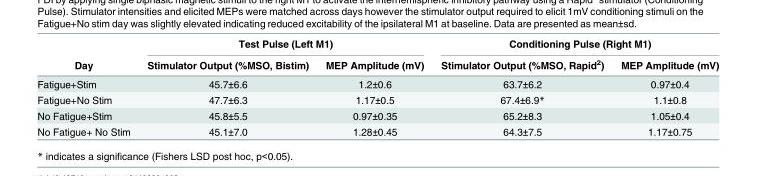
<table><thead><tr><td rowspan="2">Day</td><td colspan="2">Test Pulse (Left M1)</td><td colspan="2">Conditioning Pulse (Right M1)</td></tr><tr><td>Stimulator Output (%MSO, Bistim)</td><td>MEP Amplitude (mV)</td><td>Stimulator Output (%MSO, Rapid<sup>2</sup>)</td><td>MEP Amplitude (mV)</td></tr></thead><tbody><tr><td>Fatigue+Stim</td><td>45.7±6.6</td><td>1.2±0.6</td><td>63.7±6.2</td><td>0.97±0.4</td></tr><tr><td>Fatigue+No Stim</td><td>47.7±6.3</td><td>1.17±0.5</td><td>67.4±6.9*</td><td>1.1±0.8</td></tr><tr><td>No Fatigue+Stim</td><td>45.8±5.5</td><td>0.97±0.35</td><td>65.2±8.3</td><td>1.05±0.4</td></tr><tr><td>No Fatigue+ No Stim</td><td>45.1±7.0</td><td>1.28±0.45</td><td>64.3±7.5</td><td>1.17±0.75</td></tr></tbody></table>